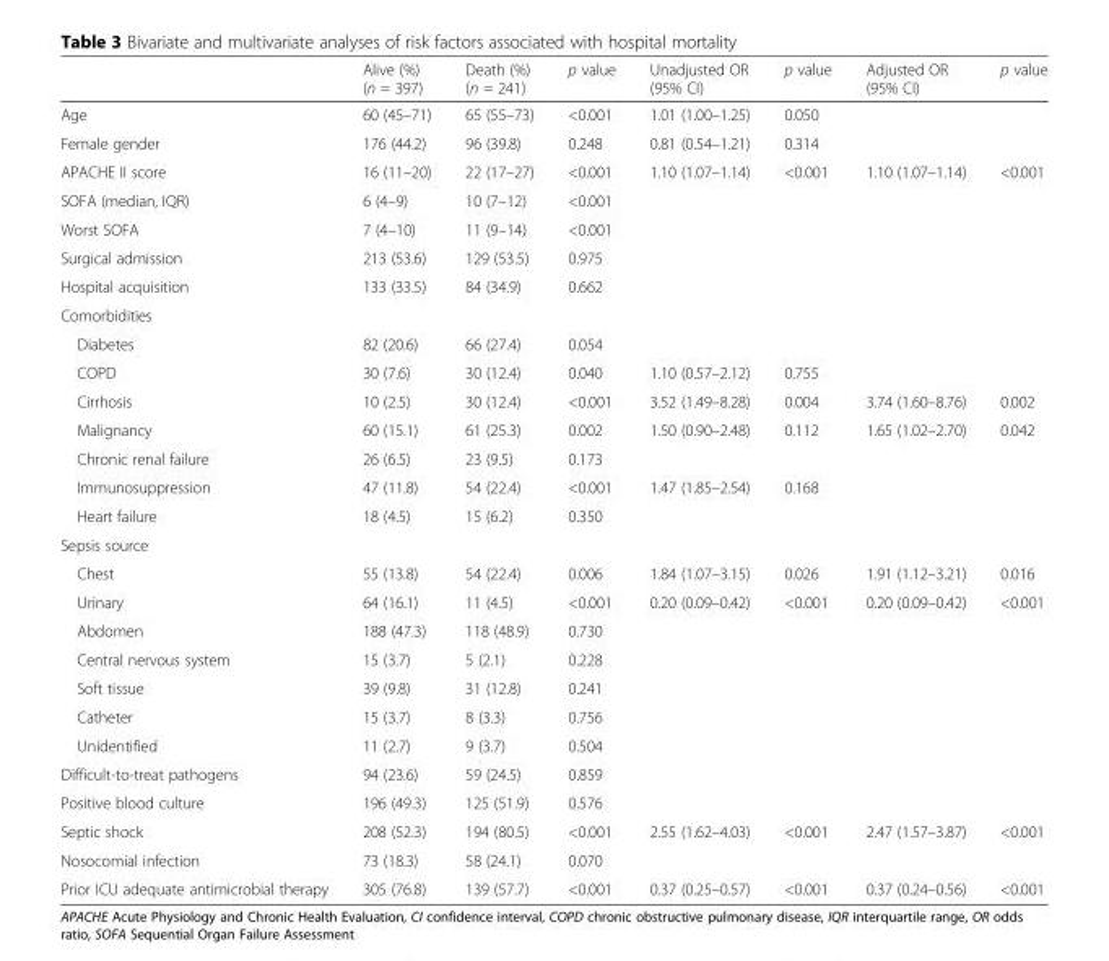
<table><thead><tr><td></td><td>Alive (%) (n = 397)</td><td>Death (%) (n = 241)</td><td>p value</td><td>Unadjusted OR (95% CI)</td><td>p value</td><td>Adjusted OR (95% CI)</td><td>p value</td></tr></thead><tbody><tr><td>Age</td><td>60 (45–71)</td><td>65 (55–73)</td><td>&lt;0.001</td><td>1.01 (1.00–1.25)</td><td>0.050</td><td></td><td></td></tr><tr><td>Female gender</td><td>176 (44.2)</td><td>96 (39.8)</td><td>0.248</td><td>0.81 (0.54–1.21)</td><td>0.314</td><td></td><td></td></tr><tr><td>APACHE II score</td><td>16 (11–20)</td><td>22 (17–27)</td><td>&lt;0.001</td><td>1.10 (1.07–1.14)</td><td>&lt;0.001</td><td>1.10 (1.07–1.14)</td><td>&lt;0.001</td></tr><tr><td>SOFA (median, IQR)</td><td>6 (4–9)</td><td>10 (7–12)</td><td>&lt;0.001</td><td></td><td></td><td></td><td></td></tr><tr><td>Worst SOFA</td><td>7 (4–10)</td><td>11 (9–14)</td><td>&lt;0.001</td><td></td><td></td><td></td><td></td></tr><tr><td>Surgical admission</td><td>213 (53.6)</td><td>129 (53.5)</td><td>0.975</td><td></td><td></td><td></td><td></td></tr><tr><td>Hospital acquisition</td><td>133 (33.5)</td><td>84 (34.9)</td><td>0.662</td><td></td><td></td><td></td><td></td></tr><tr><td colspan="8">Comorbidities</td></tr><tr><td>Diabetes</td><td>82 (20.6)</td><td>66 (27.4)</td><td>0.054</td><td></td><td></td><td></td><td></td></tr><tr><td>COPD</td><td>30 (7.6)</td><td>30 (12.4)</td><td>0.040</td><td>1.10 (0.57–2.12)</td><td>0.755</td><td></td><td></td></tr><tr><td>Cirrhosis</td><td>10 (2.5)</td><td>30 (12.4)</td><td>&lt;0.001</td><td>3.52 (1.49–8.28)</td><td>0.004</td><td>3.74 (1.60–8.76)</td><td>0.002</td></tr><tr><td>Malignancy</td><td>60 (15.1)</td><td>61 (25.3)</td><td>0.002</td><td>1.50 (0.90–2.48)</td><td>0.112</td><td>1.65 (1.02–2.70)</td><td>0.042</td></tr><tr><td>Chronic renal failure</td><td>26 (6.5)</td><td>23 (9.5)</td><td>0.173</td><td></td><td></td><td></td><td></td></tr><tr><td>Immunosuppression</td><td>47 (11.8)</td><td>54 (22.4)</td><td>&lt;0.001</td><td>1.47 (1.85–2.54)</td><td>0.168</td><td></td><td></td></tr><tr><td>Heart failure</td><td>18 (4.5)</td><td>15 (6.2)</td><td>0.350</td><td></td><td></td><td></td><td></td></tr><tr><td colspan="8">Sepsis source</td></tr><tr><td>Chest</td><td>55 (13.8)</td><td>54 (22.4)</td><td>0.006</td><td>1.84 (1.07–3.15)</td><td>0.026</td><td>1.91 (1.12–3.21)</td><td>0.016</td></tr><tr><td>Urinary</td><td>64 (16.1)</td><td>11 (4.5)</td><td>&lt;0.001</td><td>0.20 (0.09–0.42)</td><td>&lt;0.001</td><td>0.20 (0.09–0.42)</td><td>&lt;0.001</td></tr><tr><td>Abdomen</td><td>188 (47.3)</td><td>118 (48.9)</td><td>0.730</td><td></td><td></td><td></td><td></td></tr><tr><td>Central nervous system</td><td>15 (3.7)</td><td>5 (2.1)</td><td>0.228</td><td></td><td></td><td></td><td></td></tr><tr><td>Soft tissue</td><td>39 (9.8)</td><td>31 (12.8)</td><td>0.241</td><td></td><td></td><td></td><td></td></tr><tr><td>Catheter</td><td>15 (3.7)</td><td>8 (3.3)</td><td>0.756</td><td></td><td></td><td></td><td></td></tr><tr><td>Unidentified</td><td>11 (2.7)</td><td>9 (3.7)</td><td>0.504</td><td></td><td></td><td></td><td></td></tr><tr><td>Difficult-to-treat pathogens</td><td>94 (23.6)</td><td>59 (24.5)</td><td>0.859</td><td></td><td></td><td></td><td></td></tr><tr><td>Positive blood culture</td><td>196 (49.3)</td><td>125 (51.9)</td><td>0.576</td><td></td><td></td><td></td><td></td></tr><tr><td>Septic shock</td><td>208 (52.3)</td><td>194 (80.5)</td><td>&lt;0.001</td><td>2.55 (1.62–4.03)</td><td>&lt;0.001</td><td>2.47 (1.57–3.87)</td><td>&lt;0.001</td></tr><tr><td>Nosocomial infection</td><td>73 (18.3)</td><td>58 (24.1)</td><td>0.070</td><td></td><td></td><td></td><td></td></tr><tr><td>Prior ICU adequate antimicrobial therapy</td><td>305 (76.8)</td><td>139 (57.7)</td><td>&lt;0.001</td><td>0.37 (0.25–0.57)</td><td>&lt;0.001</td><td>0.37 (0.24–0.56)</td><td>&lt;0.001</td></tr></tbody></table>